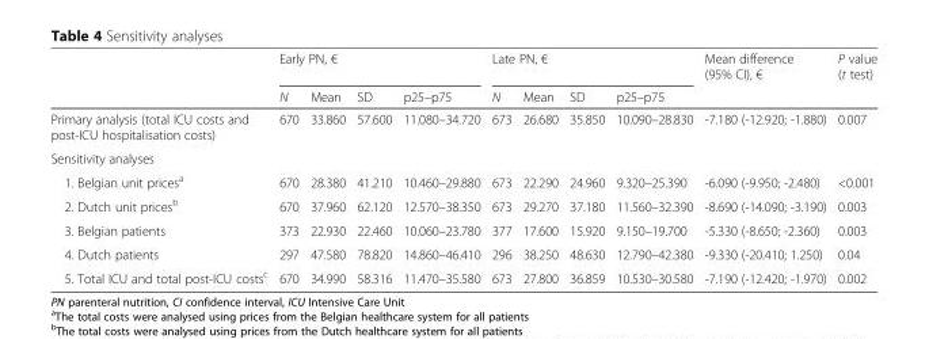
<table><thead><tr><td rowspan="2"></td><td colspan="4">Early PN, €</td><td colspan="4">Late PN, €</td><td rowspan="2">Mean difference (95% CI), €</td><td rowspan="2">P value (t test)</td></tr><tr><td>N</td><td>Mean</td><td>SD</td><td>p25–p75</td><td>N</td><td>Mean</td><td>SD</td><td>p25–p75</td></tr></thead><tbody><tr><td>Primary analysis (total ICU costs and post-ICU hospitalisation costs)</td><td>670</td><td>33.860</td><td>57.600</td><td>11.080–34.720</td><td>673</td><td>26.680</td><td>35.850</td><td>10.090–28.830</td><td>-7.180 (-12.920; -1.880)</td><td>0.007</td></tr><tr><td colspan="11">Sensitivity analyses</td></tr><tr><td>1. Belgian unit prices<sup>a</sup></td><td>670</td><td>28.380</td><td>41.210</td><td>10.460–29.880</td><td>673</td><td>22.290</td><td>24.960</td><td>9.320–25.390</td><td>-6.090 (-9.950; -2.480)</td><td>&lt;0.001</td></tr><tr><td>2. Dutch unit prices<sup>b</sup></td><td>670</td><td>37.960</td><td>62.120</td><td>12.570–38.350</td><td>673</td><td>29.270</td><td>37.180</td><td>11.560–32.390</td><td>-8.690 (-14.090; -3.190)</td><td>0.003</td></tr><tr><td>3. Belgian patients</td><td>373</td><td>22.930</td><td>22.460</td><td>10.060–23.780</td><td>377</td><td>17.600</td><td>15.920</td><td>9.150–19.700</td><td>-5.330 (-8.650; -2.360)</td><td>0.003</td></tr><tr><td>4. Dutch patients</td><td>297</td><td>47.580</td><td>78.820</td><td>14.860–46.410</td><td>296</td><td>38.250</td><td>48.630</td><td>12.790–42.380</td><td>-9.330 (-20.410; 1.250)</td><td>0.04</td></tr><tr><td>5. Total ICU and total post-ICU costs<sup>c</sup></td><td>670</td><td>34.990</td><td>58.316</td><td>11.470–35.580</td><td>673</td><td>27.800</td><td>36.859</td><td>10.530–30.580</td><td>-7.190 (-12.420; -1.970)</td><td>0.002</td></tr></tbody></table>